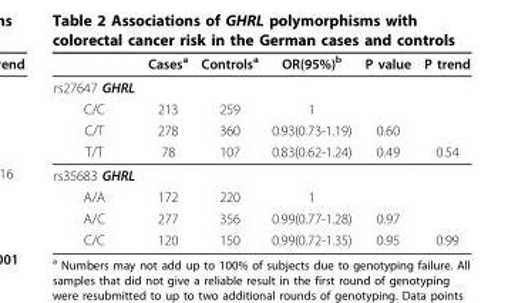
<table><thead><tr><td></td><td>Cases<sup>a</sup></td><td>Controls<sup>a</sup></td><td>OR(95%)<sup>b</sup></td><td>P value</td><td>P trend</td></tr></thead><tbody><tr><td colspan="6">rs27647 GHRL</td></tr><tr><td>C/C</td><td>213</td><td>259</td><td>1</td><td></td><td></td></tr><tr><td>C/T</td><td>278</td><td>360</td><td>0.93(0.73-1.19)</td><td>0.60</td><td></td></tr><tr><td>T/T</td><td>78</td><td>107</td><td>0.83(0.62-1.24)</td><td>0.49</td><td>0.54</td></tr><tr><td colspan="6">rs35683 GHRL</td></tr><tr><td>A/A</td><td>172</td><td>220</td><td>1</td><td></td><td></td></tr><tr><td>A/C</td><td>277</td><td>356</td><td>0.99(0.77-1.28)</td><td>0.97</td><td></td></tr><tr><td>C/C</td><td>120</td><td>150</td><td>0.99(0.72-1.35)</td><td>0.95</td><td>0.99</td></tr></tbody></table>